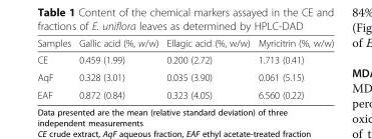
<table><thead><tr><td>Samples</td><td>Gallic acid (%, w/w)</td><td>Ellagic acid (%, w/w)</td><td>Myricitrin (%, w/w)</td></tr></thead><tbody><tr><td>CE</td><td>0.459 (1.99)</td><td>0.200 (2.72)</td><td>1.713 (0.41)</td></tr><tr><td>AqF</td><td>0.328 (3.01)</td><td>0.035 (3.90)</td><td>0.061 (5.15)</td></tr><tr><td>EAF</td><td>0.872 (0.84)</td><td>0.323 (4.05)</td><td>6.560 (0.22)</td></tr></tbody></table>